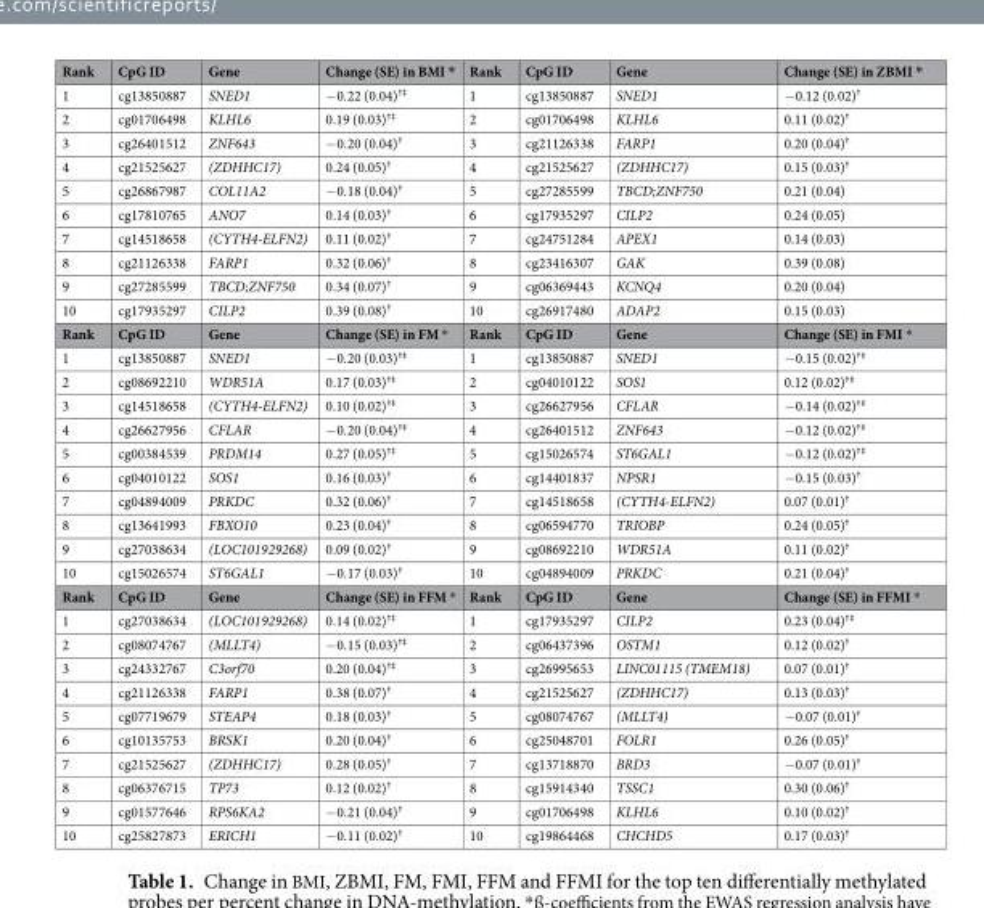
<table><thead><tr><td>Rank</td><td>CpG ID</td><td>Gene</td><td>Change (SE) in BMI *</td><td>Rank</td><td>CpG ID</td><td>Gene</td><td>Change (SE) in ZBMI *</td></tr></thead><tbody><tr><td>1</td><td>cg13850887</td><td>SNED1</td><td>−0.22 (0.04)<sup>†‡</sup></td><td>1</td><td>cg13850887</td><td>SNED1</td><td>−0.12 (0.02)<sup>†</sup></td></tr><tr><td>2</td><td>cg01706498</td><td>KLHL6</td><td>0.19 (0.03)<sup>†‡</sup></td><td>2</td><td>cg01706498</td><td>KLHL6</td><td>0.11 (0.02)<sup>†</sup></td></tr><tr><td>3</td><td>cg26401512</td><td>ZNF643</td><td>−0.20 (0.04)<sup>†</sup></td><td>3</td><td>cg21126338</td><td>FARP1</td><td>0.20 (0.04)<sup>†</sup></td></tr><tr><td>4</td><td>cg21525627</td><td>(ZDHHC17)</td><td>0.24 (0.05)<sup>†</sup></td><td>4</td><td>cg21525627</td><td>(ZDHHC17)</td><td>0.15 (0.03)<sup>†</sup></td></tr><tr><td>5</td><td>cg26867987</td><td>COL11A2</td><td>−0.18 (0.04)<sup>†</sup></td><td>5</td><td>cg27285599</td><td>TBCD;ZNF750</td><td>0.21 (0.04)</td></tr><tr><td>6</td><td>cg17810765</td><td>ANO7</td><td>0.14 (0.03)<sup>†</sup></td><td>6</td><td>cg17935297</td><td>CILP2</td><td>0.24 (0.05)</td></tr><tr><td>7</td><td>cg14518658</td><td>(CYTH4-ELFN2)</td><td>0.11 (0.02)<sup>†</sup></td><td>7</td><td>cg24751284</td><td>APEX1</td><td>0.14 (0.03)</td></tr><tr><td>8</td><td>cg21126338</td><td>FARP1</td><td>0.32 (0.06)<sup>†</sup></td><td>8</td><td>cg23416307</td><td>GAK</td><td>0.39 (0.08)</td></tr><tr><td>9</td><td>cg27285599</td><td>TBCD;ZNF750</td><td>0.34 (0.07)<sup>†</sup></td><td>9</td><td>cg06369443</td><td>KCNQ4</td><td>0.20 (0.04)</td></tr><tr><td>10</td><td>cg17935297</td><td>CILP2</td><td>0.39 (0.08)<sup>†</sup></td><td>10</td><td>cg26917480</td><td>ADAP2</td><td>0.15 (0.03)</td></tr><tr><td>Rank</td><td>CpG ID</td><td>Gene</td><td>Change (SE) in FM *</td><td>Rank</td><td>CpG ID</td><td>Gene</td><td>Change (SE) in FMI *</td></tr><tr><td>1</td><td>cg13850887</td><td>SNED1</td><td>−0.20 (0.03)<sup>†‡</sup></td><td>1</td><td>cg13850887</td><td>SNED1</td><td>−0.15 (0.02)<sup>†‡</sup></td></tr><tr><td>2</td><td>cg08692210</td><td>WDR51A</td><td>0.17 (0.03)<sup>†‡</sup></td><td>2</td><td>cg04010122</td><td>SOS1</td><td>0.12 (0.02)<sup>†‡</sup></td></tr><tr><td>3</td><td>cg14518658</td><td>(CYTH4-ELFN2)</td><td>0.10 (0.02)<sup>†‡</sup></td><td>3</td><td>cg26627956</td><td>CFLAR</td><td>−0.14 (0.02)<sup>†‡</sup></td></tr><tr><td>4</td><td>cg26627956</td><td>CFLAR</td><td>−0.20 (0.04)<sup>†‡</sup></td><td>4</td><td>cg26401512</td><td>ZNF643</td><td>−0.12 (0.02)<sup>†‡</sup></td></tr><tr><td>5</td><td>cg00384539</td><td>PRDM14</td><td>0.27 (0.05)<sup>†‡</sup></td><td>5</td><td>cg15026574</td><td>ST6GAL1</td><td>−0.12 (0.02)<sup>†‡</sup></td></tr><tr><td>6</td><td>cg04010122</td><td>SOS1</td><td>0.16 (0.03)<sup>†</sup></td><td>6</td><td>cg14401837</td><td>NPSR1</td><td>−0.15 (0.03)<sup>†</sup></td></tr><tr><td>7</td><td>cg04894009</td><td>PRKDC</td><td>0.32 (0.06)<sup>†</sup></td><td>7</td><td>cg14518658</td><td>(CYTH4-ELFN2)</td><td>0.07 (0.01)<sup>†</sup></td></tr><tr><td>8</td><td>cg13641993</td><td>FBXO10</td><td>0.23 (0.04)<sup>†</sup></td><td>8</td><td>cg06594770</td><td>TRIOBP</td><td>0.24 (0.05)<sup>†</sup></td></tr><tr><td>9</td><td>cg27038634</td><td>(LOC101929268)</td><td>0.09 (0.02)<sup>†</sup></td><td>9</td><td>cg08692210</td><td>WDR51A</td><td>0.11 (0.02)<sup>†</sup></td></tr><tr><td>10</td><td>cg15026574</td><td>ST6GAL1</td><td>−0.17 (0.03)<sup>†</sup></td><td>10</td><td>cg04894009</td><td>PRKDC</td><td>0.21 (0.04)<sup>†</sup></td></tr><tr><td>Rank</td><td>CpG ID</td><td>Gene</td><td>Change (SE) in FFM *</td><td>Rank</td><td>CpG ID</td><td>Gene</td><td>Change (SE) in FFMI *</td></tr><tr><td>1</td><td>cg27038634</td><td>(LOC101929268)</td><td>0.14 (0.02)<sup>†‡</sup></td><td>1</td><td>cg17935297</td><td>CILP2</td><td>0.23 (0.04)<sup>†‡</sup></td></tr><tr><td>2</td><td>cg08074767</td><td>(MLLT4)</td><td>−0.15 (0.03)<sup>†‡</sup></td><td>2</td><td>cg06437396</td><td>OSTM1</td><td>0.12 (0.02)<sup>†</sup></td></tr><tr><td>3</td><td>cg24332767</td><td>C3orf70</td><td>0.20 (0.04)<sup>†‡</sup></td><td>3</td><td>cg26995653</td><td>LINC01115 (TMEM18)</td><td>0.07 (0.01)<sup>†</sup></td></tr><tr><td>4</td><td>cg21126338</td><td>FARP1</td><td>0.38 (0.07)<sup>†</sup></td><td>4</td><td>cg21525627</td><td>(ZDHHC17)</td><td>0.13 (0.03)<sup>†</sup></td></tr><tr><td>5</td><td>cg07719679</td><td>STEAP4</td><td>0.18 (0.03)<sup>†</sup></td><td>5</td><td>cg08074767</td><td>(MLLT4)</td><td>−0.07 (0.01)<sup>†</sup></td></tr><tr><td>6</td><td>cg10135753</td><td>BRSK1</td><td>0.20 (0.04)<sup>†</sup></td><td>6</td><td>cg25048701</td><td>FOLR1</td><td>0.26 (0.05)<sup>†</sup></td></tr><tr><td>7</td><td>cg21525627</td><td>(ZDHHC17)</td><td>0.28 (0.05)<sup>†</sup></td><td>7</td><td>cg13718870</td><td>BRD3</td><td>−0.07 (0.01)<sup>†</sup></td></tr><tr><td>8</td><td>cg06376715</td><td>TP73</td><td>0.12 (0.02)<sup>†</sup></td><td>8</td><td>cg15914340</td><td>TSSC1</td><td>0.30 (0.06)<sup>†</sup></td></tr><tr><td>9</td><td>cg01577646</td><td>RPS6KA2</td><td>−0.21 (0.04)<sup>†</sup></td><td>9</td><td>cg01706498</td><td>KLHL6</td><td>0.10 (0.02)<sup>†</sup></td></tr><tr><td>10</td><td>cg25827873</td><td>ERICH1</td><td>−0.11 (0.02)<sup>†</sup></td><td>10</td><td>cg19864468</td><td>CHCHD5</td><td>0.17 (0.03)<sup>†</sup></td></tr></tbody></table>